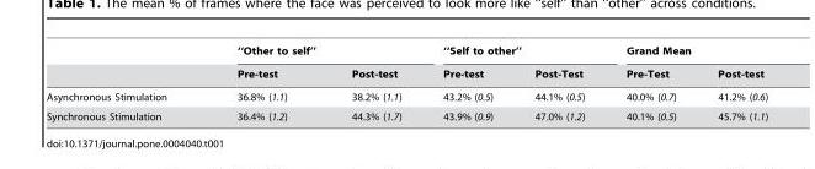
<table><thead><tr><td rowspan="2"></td><td colspan="2">‘‘Other to self’’</td><td colspan="2">‘‘Self to other’’</td><td colspan="2">Grand Mean</td></tr><tr><td>Pre-test</td><td>Post-test</td><td>Pre-test</td><td>Post-Test</td><td>Pre-Test</td><td>Post-test</td></tr></thead><tbody><tr><td>Asynchronous Stimulation</td><td>36.8% (1.1)</td><td>38.2% (1.1)</td><td>43.2% (0.5)</td><td>44.1% (0.5)</td><td>40.0% (0.7)</td><td>41.2% (0.6)</td></tr><tr><td>Synchronous Stimulation</td><td>36.4% (1.2)</td><td>44.3% (1.7)</td><td>43.9% (0.9)</td><td>47.0% (1.2)</td><td>40.1% (0.5)</td><td>45.7% (1.1)</td></tr></tbody></table>